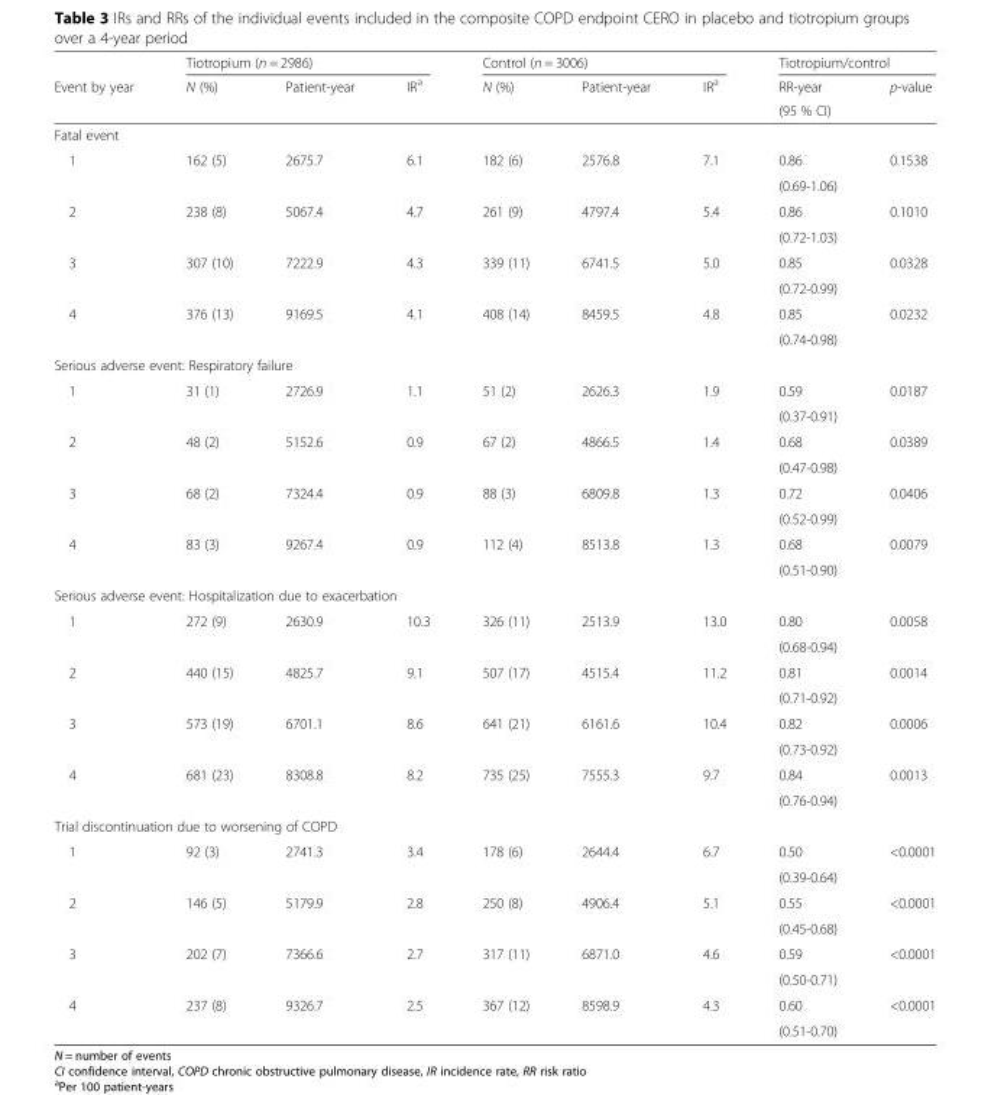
<table><thead><tr><td rowspan="3">Event by year</td><td colspan="3">Tiotropium (n = 2986)</td><td colspan="3">Control (n = 3006)</td><td colspan="2">Tiotropium/control</td></tr><tr><td rowspan="2">N (%)</td><td rowspan="2">Patient-year</td><td rowspan="2">IR<sup>a</sup></td><td rowspan="2">N (%)</td><td rowspan="2">Patient-year</td><td rowspan="2">IR<sup>a</sup></td><td rowspan="2">RR-year (95 % CI)</td><td rowspan="2">p-value</td></tr><tr></tr></thead><tbody><tr><td colspan="9">Fatal event</td></tr><tr><td rowspan="2">1</td><td>162 (5)</td><td>2675.7</td><td>6.1</td><td>182 (6)</td><td>2576.8</td><td>7.1</td><td>0.86</td><td>0.1538</td></tr><tr><td></td><td></td><td></td><td></td><td></td><td></td><td>(0.69-1.06)</td><td></td></tr><tr><td rowspan="2">2</td><td>238 (8)</td><td>5067.4</td><td>4.7</td><td>261 (9)</td><td>4797.4</td><td>5.4</td><td>0.86</td><td>0.1010</td></tr><tr><td></td><td></td><td></td><td></td><td></td><td></td><td>(0.72-1.03)</td><td></td></tr><tr><td rowspan="2">3</td><td>307 (10)</td><td>7222.9</td><td>4.3</td><td>339 (11)</td><td>6741.5</td><td>5.0</td><td>0.85</td><td>0.0328</td></tr><tr><td></td><td></td><td></td><td></td><td></td><td></td><td>(0.72-0.99)</td><td></td></tr><tr><td rowspan="2">4</td><td>376 (13)</td><td>9169.5</td><td>4.1</td><td>408 (14)</td><td>8459.5</td><td>4.8</td><td>0.85</td><td>0.0232</td></tr><tr><td></td><td></td><td></td><td></td><td></td><td></td><td>(0.74-0.98)</td><td></td></tr><tr><td colspan="9">Serious adverse event: Respiratory failure</td></tr><tr><td rowspan="2">1</td><td>31 (1)</td><td>2726.9</td><td>1.1</td><td>51 (2)</td><td>2626.3</td><td>1.9</td><td>0.59</td><td>0.0187</td></tr><tr><td></td><td></td><td></td><td></td><td></td><td></td><td>(0.37-0.91)</td><td></td></tr><tr><td rowspan="2">2</td><td>48 (2)</td><td>5152.6</td><td>0.9</td><td>67 (2)</td><td>4866.5</td><td>1.4</td><td>0.68</td><td>0.0389</td></tr><tr><td></td><td></td><td></td><td></td><td></td><td></td><td>(0.47-0.98)</td><td></td></tr><tr><td rowspan="2">3</td><td>68 (2)</td><td>7324.4</td><td>0.9</td><td>88 (3)</td><td>6809.8</td><td>1.3</td><td>0.72</td><td>0.0406</td></tr><tr><td></td><td></td><td></td><td></td><td></td><td></td><td>(0.52-0.99)</td><td></td></tr><tr><td rowspan="2">4</td><td>83 (3)</td><td>9267.4</td><td>0.9</td><td>112 (4)</td><td>8513.8</td><td>1.3</td><td>0.68</td><td>0.0079</td></tr><tr><td></td><td></td><td></td><td></td><td></td><td></td><td>(0.51-0.90)</td><td></td></tr><tr><td colspan="9">Serious adverse event: Hospitalization due to exacerbation</td></tr><tr><td rowspan="2">1</td><td>272 (9)</td><td>2630.9</td><td>10.3</td><td>326 (11)</td><td>2513.9</td><td>13.0</td><td>0.80</td><td>0.0058</td></tr><tr><td></td><td></td><td></td><td></td><td></td><td></td><td>(0.68-0.94)</td><td></td></tr><tr><td rowspan="2">2</td><td>440 (15)</td><td>4825.7</td><td>9.1</td><td>507 (17)</td><td>4515.4</td><td>11.2</td><td>0.81</td><td>0.0014</td></tr><tr><td></td><td></td><td></td><td></td><td></td><td></td><td>(0.71-0.92)</td><td></td></tr><tr><td rowspan="2">3</td><td>573 (19)</td><td>6701.1</td><td>8.6</td><td>641 (21)</td><td>6161.6</td><td>10.4</td><td>0.82</td><td>0.0006</td></tr><tr><td></td><td></td><td></td><td></td><td></td><td></td><td>(0.73-0.92)</td><td></td></tr><tr><td rowspan="2">4</td><td>681 (23)</td><td>8308.8</td><td>8.2</td><td>735 (25)</td><td>7555.3</td><td>9.7</td><td>0.84</td><td>0.0013</td></tr><tr><td></td><td></td><td></td><td></td><td></td><td></td><td>(0.76-0.94)</td><td></td></tr><tr><td colspan="9">Trial discontinuation due to worsening of COPD</td></tr><tr><td rowspan="2">1</td><td>92 (3)</td><td>2741.3</td><td>3.4</td><td>178 (6)</td><td>2644.4</td><td>6.7</td><td>0.50</td><td>&lt;0.0001</td></tr><tr><td></td><td></td><td></td><td></td><td></td><td></td><td>(0.39-0.64)</td><td></td></tr><tr><td rowspan="2">2</td><td>146 (5)</td><td>5179.9</td><td>2.8</td><td>250 (8)</td><td>4906.4</td><td>5.1</td><td>0.55</td><td>&lt;0.0001</td></tr><tr><td></td><td></td><td></td><td></td><td></td><td></td><td>(0.45-0.68)</td><td></td></tr><tr><td rowspan="2">3</td><td>202 (7)</td><td>7366.6</td><td>2.7</td><td>317 (11)</td><td>6871.0</td><td>4.6</td><td>0.59</td><td>&lt;0.0001</td></tr><tr><td></td><td></td><td></td><td></td><td></td><td></td><td>(0.50-0.71)</td><td></td></tr><tr><td rowspan="2">4</td><td>237 (8)</td><td>9326.7</td><td>2.5</td><td>367 (12)</td><td>8598.9</td><td>4.3</td><td>0.60</td><td>&lt;0.0001</td></tr><tr><td></td><td></td><td></td><td></td><td></td><td></td><td>(0.51-0.70)</td><td></td></tr></tbody></table>